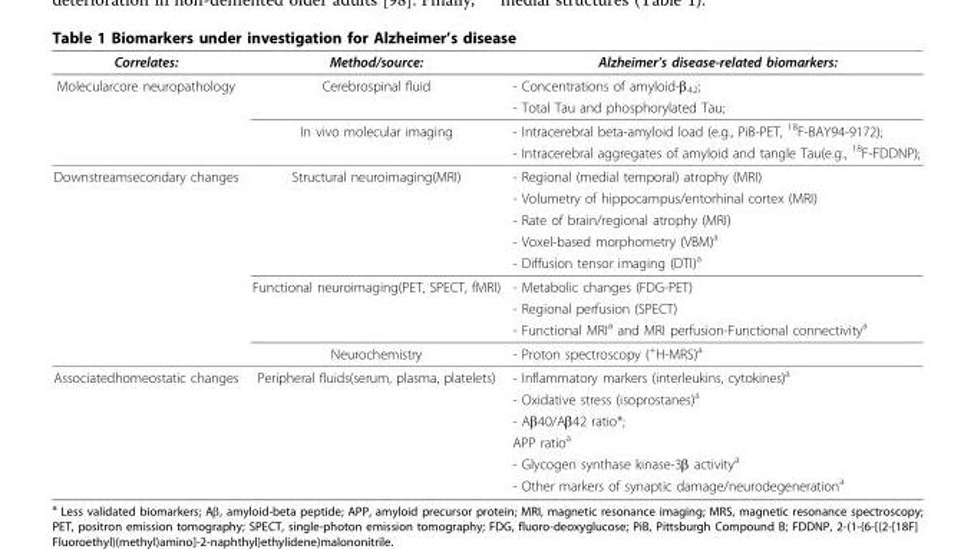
<table><thead><tr><td>Correlates:</td><td>Method/source:</td><td>Alzheimer’s disease-related biomarkers:</td></tr></thead><tbody><tr><td rowspan="4">Molecularcore neuropathology</td><td>Cerebrospinal fluid</td><td>- Concentrations of amyloid-β<sub>42</sub>;</td></tr><tr><td></td><td>- Total Tau and phosphorylated Tau;</td></tr><tr><td>In vivo molecular imaging</td><td>- Intracerebral beta-amyloid load (e.g., PiB-PET, <sup>18</sup>F-BAY94-9172);</td></tr><tr><td></td><td>- Intracerebral aggregates of amyloid and tangle Tau(e.g., <sup>18</sup>F-FDDNP);</td></tr><tr><td rowspan="9">Downstreamsecondary changes</td><td>Structural neuroimaging(MRI)</td><td>- Regional (medial temporal) atrophy (MRI)</td></tr><tr><td></td><td>- Volumetry of hippocampus/entorhinal cortex (MRI)</td></tr><tr><td></td><td>- Rate of brain/regional atrophy (MRI)</td></tr><tr><td></td><td>- Voxel-based morphometry (VBM)<sup>a</sup></td></tr><tr><td></td><td>- Diffusion tensor imaging (DTI)<sup>a</sup></td></tr><tr><td>Functional neuroimaging(PET, SPECT, fMRI)</td><td>- Metabolic changes (FDG-PET)</td></tr><tr><td></td><td>- Regional perfusion (SPECT)</td></tr><tr><td></td><td>- Functional MRI<sup>a</sup> and MRI perfusion-Functional connectivity<sup>a</sup></td></tr><tr><td>Neurochemistry</td><td>- Proton spectroscopy (<sup>+</sup>H-MRS)<sup>a</sup></td></tr><tr><td rowspan="6">Associatedhomeostatic changes</td><td>Peripheral fluids(serum, plasma, platelets)</td><td>- Inflammatory markers (interleukins, cytokines)<sup>a</sup></td></tr><tr><td></td><td>- Oxidative stress (isoprostanes)<sup>a</sup></td></tr><tr><td></td><td>- Aβ40/Aβ42 ratio*;</td></tr><tr><td></td><td>APP ratio<sup>a</sup></td></tr><tr><td></td><td>- Glycogen synthase kinase-3β activity<sup>a</sup></td></tr><tr><td></td><td>- Other markers of synaptic damage/neurodegeneration<sup>a</sup></td></tr></tbody></table>